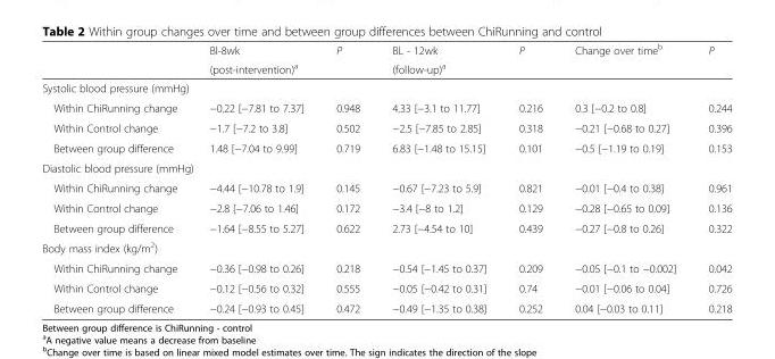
<table><thead><tr><td rowspan="2"></td><td rowspan="2">Bl-8wk (post-intervention)<sup>a</sup></td><td rowspan="2">P</td><td rowspan="2">BL - 12wk (follow-up)<sup>a</sup></td><td rowspan="2">P</td><td rowspan="2">Change over time<sup>b</sup></td><td rowspan="2">P</td></tr><tr></tr></thead><tbody><tr><td colspan="7">Systolic blood pressure (mmHg)</td></tr><tr><td>Within ChiRunning change</td><td>−0.22 [−7.81 to 7.37]</td><td>0.948</td><td>4.33 [−3.1 to 11.77]</td><td>0.216</td><td>0.3 [−0.2 to 0.8]</td><td>0.244</td></tr><tr><td>Within Control change</td><td>−1.7 [−7.2 to 3.8]</td><td>0.502</td><td>−2.5 [−7.85 to 2.85]</td><td>0.318</td><td>−0.21 [−0.68 to 0.27]</td><td>0.396</td></tr><tr><td>Between group difference</td><td>1.48 [−7.04 to 9.99]</td><td>0.719</td><td>6.83 [−1.48 to 15.15]</td><td>0.101</td><td>−0.5 [−1.19 to 0.19]</td><td>0.153</td></tr><tr><td colspan="7">Diastolic blood pressure (mmHg)</td></tr><tr><td>Within ChiRunning change</td><td>−4.44 [−10.78 to 1.9]</td><td>0.145</td><td>−0.67 [−7.23 to 5.9]</td><td>0.821</td><td>−0.01 [−0.4 to 0.38]</td><td>0.961</td></tr><tr><td>Within Control change</td><td>−2.8 [−7.06 to 1.46]</td><td>0.172</td><td>−3.4 [−8 to 1.2]</td><td>0.129</td><td>−0.28 [−0.65 to 0.09]</td><td>0.136</td></tr><tr><td>Between group difference</td><td>−1.64 [−8.55 to 5.27]</td><td>0.622</td><td>2.73 [−4.54 to 10]</td><td>0.439</td><td>−0.27 [−0.8 to 0.26]</td><td>0.322</td></tr><tr><td colspan="7">Body mass index (kg/m<sup>2</sup>)</td></tr><tr><td>Within ChiRunning change</td><td>−0.36 [−0.98 to 0.26]</td><td>0.218</td><td>−0.54 [−1.45 to 0.37]</td><td>0.209</td><td>−0.05 [−0.1 to −0.002]</td><td>0.042</td></tr><tr><td>Within Control change</td><td>−0.12 [−0.56 to 0.32]</td><td>0.555</td><td>−0.05 [−0.42 to 0.31]</td><td>0.74</td><td>−0.01 [−0.06 to 0.04]</td><td>0.726</td></tr><tr><td>Between group difference</td><td>−0.24 [−0.93 to 0.45]</td><td>0.472</td><td>−0.49 [−1.35 to 0.38]</td><td>0.252</td><td>0.04 [−0.03 to 0.11]</td><td>0.218</td></tr></tbody></table>